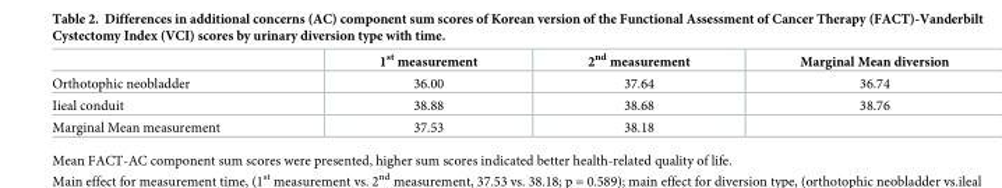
<table><thead><tr><td></td><td>1<sup>st</sup> measurement</td><td>2<sup>nd</sup> measurement</td><td>Marginal Mean diversion</td></tr></thead><tbody><tr><td>Orthotophic neobladder</td><td>36.00</td><td>37.64</td><td>36.74</td></tr><tr><td>Iieal conduit</td><td>38.88</td><td>38.68</td><td>38.76</td></tr><tr><td>Marginal Mean measurement</td><td>37.53</td><td>38.18</td><td></td></tr></tbody></table>